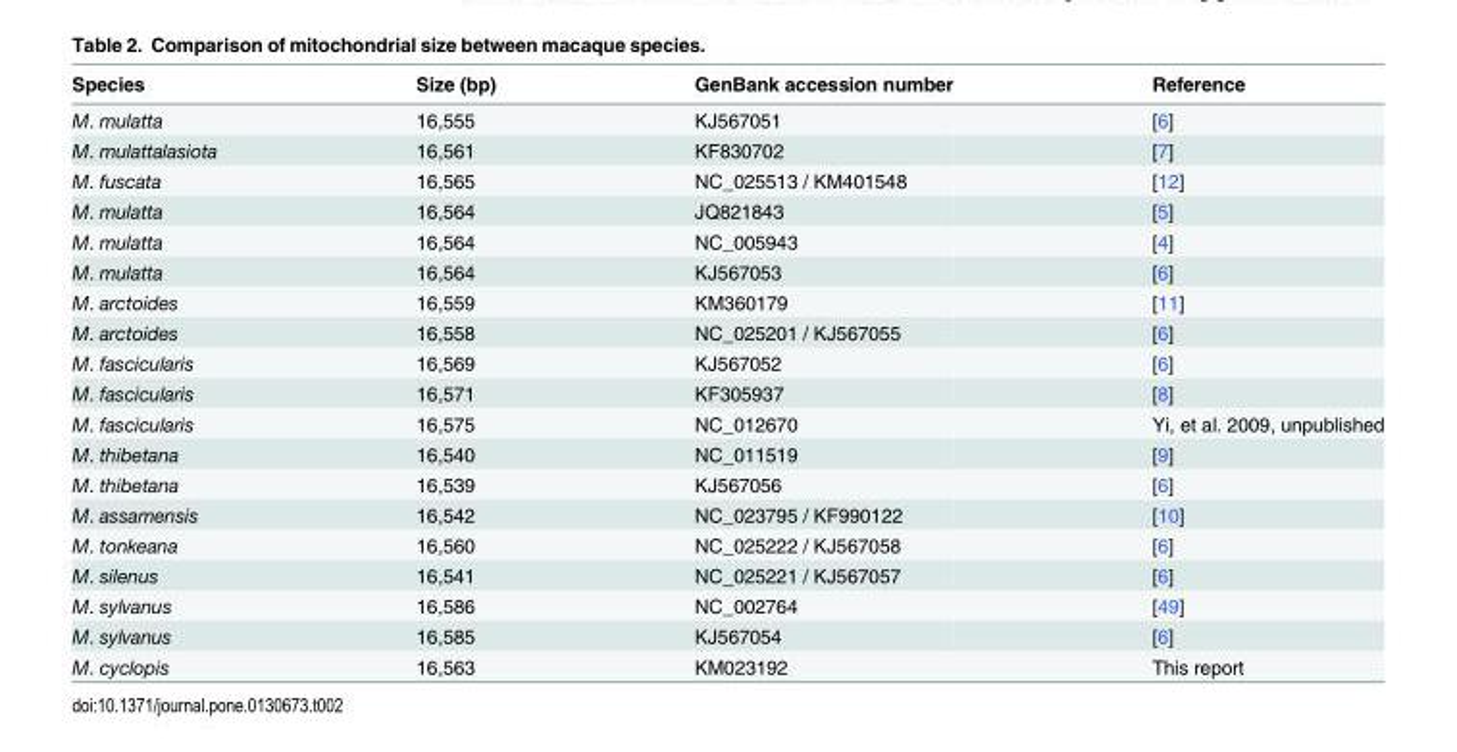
<table><thead><tr><td>Species</td><td>Size (bp)</td><td>GenBank accession number</td><td>Reference</td></tr></thead><tbody><tr><td>M. mulatta</td><td>16,555</td><td>KJ567051</td><td>[6]</td></tr><tr><td>M. mulattalasiota</td><td>16,561</td><td>KF830702</td><td>[7]</td></tr><tr><td>M. fuscata</td><td>16,565</td><td>NC_025513 / KM401548</td><td>[12]</td></tr><tr><td>M. mulatta</td><td>16,564</td><td>JQ821843</td><td>[5]</td></tr><tr><td>M. mulatta</td><td>16,564</td><td>NC_005943</td><td>[4]</td></tr><tr><td>M. mulatta</td><td>16,564</td><td>KJ567053</td><td>[6]</td></tr><tr><td>M. arctoides</td><td>16,559</td><td>KM360179</td><td>[11]</td></tr><tr><td>M. arctoides</td><td>16,558</td><td>NC_025201 / KJ567055</td><td>[6]</td></tr><tr><td>M. fascicularis</td><td>16,569</td><td>KJ567052</td><td>[6]</td></tr><tr><td>M. fascicularis</td><td>16,571</td><td>KF305937</td><td>[8]</td></tr><tr><td>M. fascicularis</td><td>16,575</td><td>NC_012670</td><td>Yi, et al. 2009, unpublished</td></tr><tr><td>M. thibetana</td><td>16,540</td><td>NC_011519</td><td>[9]</td></tr><tr><td>M. thibetana</td><td>16,539</td><td>KJ567056</td><td>[6]</td></tr><tr><td>M. assamensis</td><td>16,542</td><td>NC_023795 / KF990122</td><td>[10]</td></tr><tr><td>M. tonkeana</td><td>16,560</td><td>NC_025222 / KJ567058</td><td>[6]</td></tr><tr><td>M. silenus</td><td>16,541</td><td>NC_025221 / KJ567057</td><td>[6]</td></tr><tr><td>M. sylvanus</td><td>16,586</td><td>NC_002764</td><td>[49]</td></tr><tr><td>M. sylvanus</td><td>16,585</td><td>KJ567054</td><td>[6]</td></tr><tr><td>M. cyclopis</td><td>16,563</td><td>KM023192</td><td>This report</td></tr></tbody></table>